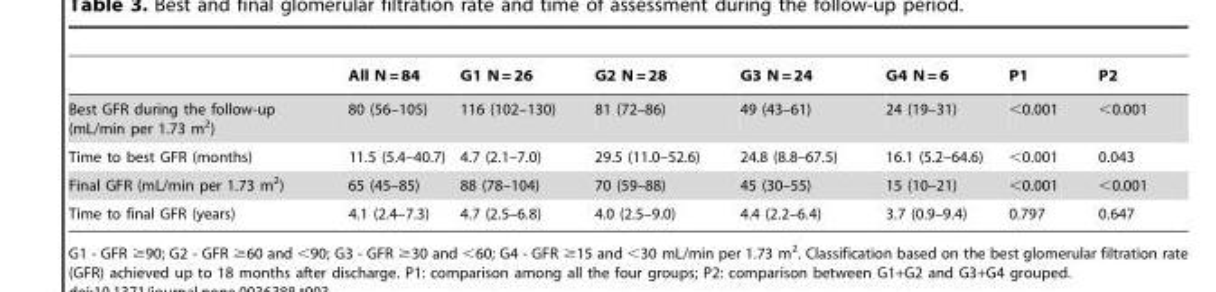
<table><thead><tr><td></td><td>All N = 84</td><td>G1 N = 26</td><td>G2 N = 28</td><td>G3 N = 24</td><td>G4 N = 6</td><td>P1</td><td>P2</td></tr></thead><tbody><tr><td>Best GFR during the follow-up (mL/min per 1.73 m<sup>2</sup>)</td><td>80 (56–105)</td><td>116 (102–130)</td><td>81 (72–86)</td><td>49 (43–61)</td><td>24 (19–31)</td><td>&lt;0.001</td><td>&lt;0.001</td></tr><tr><td>Time to best GFR (months)</td><td>11.5 (5.4–40.7)</td><td>4.7 (2.1–7.0)</td><td>29.5 (11.0–52.6)</td><td>24.8 (8.8–67.5)</td><td>16.1 (5.2–64.6)</td><td>&lt;0.001</td><td>0.043</td></tr><tr><td>Final GFR (mL/min per 1.73 m<sup>2</sup>)</td><td>65 (45–85)</td><td>88 (78–104)</td><td>70 (59–88)</td><td>45 (30–55)</td><td>15 (10–21)</td><td>&lt;0.001</td><td>&lt;0.001</td></tr><tr><td>Time to final GFR (years)</td><td>4.1 (2.4–7.3)</td><td>4.7 (2.5–6.8)</td><td>4.0 (2.5–9.0)</td><td>4.4 (2.2–6.4)</td><td>3.7 (0.9–9.4)</td><td>0.797</td><td>0.647</td></tr></tbody></table>